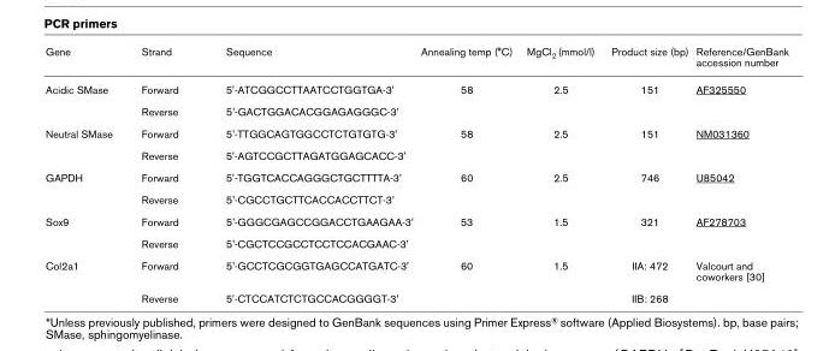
<table><thead><tr><td>Gene</td><td>Strand</td><td>Sequence</td><td>Annealing temp (°C)</td><td>MgCl2 (mmol/l)</td><td>Product size (bp)</td><td>Reference/GenBank accession number</td></tr></thead><tbody><tr><td rowspan="2">Acidic SMase</td><td>Forward</td><td>5&#x27;-ATCGGCCTTAATCCTGGTGA-3&#x27;</td><td>58</td><td>2.5</td><td>151</td><td>AF325550</td></tr><tr><td>Reverse</td><td>5&#x27;-GACTGGACACGGAGAGGGC-3&#x27;</td><td></td><td></td><td></td><td></td></tr><tr><td rowspan="2">Neutral SMase</td><td>Forward</td><td>5&#x27;-TTGGCAGTGGCCTCTGTGTG-3&#x27;</td><td>58</td><td>2.5</td><td>151</td><td>NM031360</td></tr><tr><td>Reverse</td><td>5&#x27;-AGTCCGCTTAGATGGAGCACC-3&#x27;</td><td></td><td></td><td></td><td></td></tr><tr><td rowspan="2">GAPDH</td><td>Forward</td><td>5&#x27;-TGGTCACCAGGGCTGCTTTTA-3&#x27;</td><td>60</td><td>2.5</td><td>746</td><td>U85042</td></tr><tr><td>Reverse</td><td>5&#x27;-CGCCTGCTTCACCACCTTCT-3&#x27;</td><td></td><td></td><td></td><td></td></tr><tr><td rowspan="2">Sox9</td><td>Forward</td><td>5&#x27;-GGGCGAGCCGGACCTGAAGAA-3&#x27;</td><td>53</td><td>1.5</td><td>321</td><td>AF278703</td></tr><tr><td>Reverse</td><td>5&#x27;-CGCTCCGCCTCCTCCACGAAC-3&#x27;</td><td></td><td></td><td></td><td></td></tr><tr><td rowspan="2">Col2a1</td><td>Forward</td><td>5&#x27;-GCCTCGCGGTGAGCCATGATC-3&#x27;</td><td>60</td><td>1.5</td><td>IIA: 472</td><td>Valcourt and coworkers [30]</td></tr><tr><td>Reverse</td><td>5&#x27;-CTCCATCTCTGCCACGGGGT-3&#x27;</td><td></td><td></td><td>IIB: 268</td><td></td></tr></tbody></table>